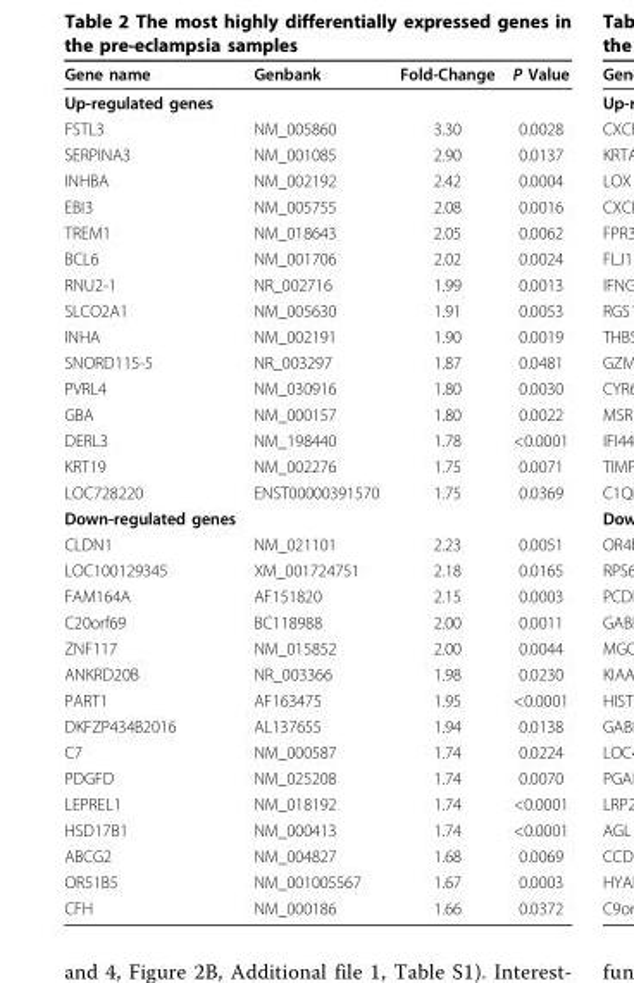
<table><thead><tr><td>Gene name</td><td>Genbank</td><td>Fold-Change</td><td>P Value</td></tr></thead><tbody><tr><td colspan="4">Up-regulated genes</td></tr><tr><td>FSTL3</td><td>NM_005860</td><td>3.30</td><td>0.0028</td></tr><tr><td>SERPINA3</td><td>NM_001085</td><td>2.90</td><td>0.0137</td></tr><tr><td>INHBA</td><td>NM_002192</td><td>2.42</td><td>0.0004</td></tr><tr><td>EBI3</td><td>NM_005755</td><td>2.08</td><td>0.0016</td></tr><tr><td>TREM1</td><td>NM_018643</td><td>2.05</td><td>0.0062</td></tr><tr><td>BCL6</td><td>NM_001706</td><td>2.02</td><td>0.0024</td></tr><tr><td>RNU2-1</td><td>NR_002716</td><td>1.99</td><td>0.0013</td></tr><tr><td>SLCO2A1</td><td>NM_005630</td><td>1.91</td><td>0.0053</td></tr><tr><td>INHA</td><td>NM_002191</td><td>1.90</td><td>0.0019</td></tr><tr><td>SNORD115-5</td><td>NR_003297</td><td>1.87</td><td>0.0481</td></tr><tr><td>PVRL4</td><td>NM_030916</td><td>1.80</td><td>0.0030</td></tr><tr><td>GBA</td><td>NM_000157</td><td>1.80</td><td>0.0022</td></tr><tr><td>DERL3</td><td>NM_198440</td><td>1.78</td><td>&lt;0.0001</td></tr><tr><td>KRT19</td><td>NM_002276</td><td>1.75</td><td>0.0071</td></tr><tr><td>LOC728220</td><td>ENST00000391570</td><td>1.75</td><td>0.0369</td></tr><tr><td colspan="4">Down-regulated genes</td></tr><tr><td>CLDN1</td><td>NM_021101</td><td>2.23</td><td>0.0051</td></tr><tr><td>LOC100129345</td><td>XM_001724751</td><td>2.18</td><td>0.0165</td></tr><tr><td>FAM164A</td><td>AF151820</td><td>2.15</td><td>0.0003</td></tr><tr><td>C20orf69</td><td>BC118988</td><td>2.00</td><td>0.0011</td></tr><tr><td>ZNF117</td><td>NM_015852</td><td>2.00</td><td>0.0044</td></tr><tr><td>ANKRD20B</td><td>NR_003366</td><td>1.98</td><td>0.0230</td></tr><tr><td>PART1</td><td>AF163475</td><td>1.95</td><td>&lt;0.0001</td></tr><tr><td>DKFZP434B2016</td><td>AL137655</td><td>1.94</td><td>0.0138</td></tr><tr><td>C7</td><td>NM_000587</td><td>1.74</td><td>0.0224</td></tr><tr><td>PDGFD</td><td>NM_025208</td><td>1.74</td><td>0.0070</td></tr><tr><td>LEPREL1</td><td>NM_018192</td><td>1.74</td><td>&lt;0.0001</td></tr><tr><td>HSD17B1</td><td>NM_000413</td><td>1.74</td><td>&lt;0.0001</td></tr><tr><td>ABCG2</td><td>NM_004827</td><td>1.68</td><td>0.0069</td></tr><tr><td>OR51B5</td><td>NM_001005567</td><td>1.67</td><td>0.0003</td></tr><tr><td>CFH</td><td>NM_000186</td><td>1.66</td><td>0.0372</td></tr></tbody></table>